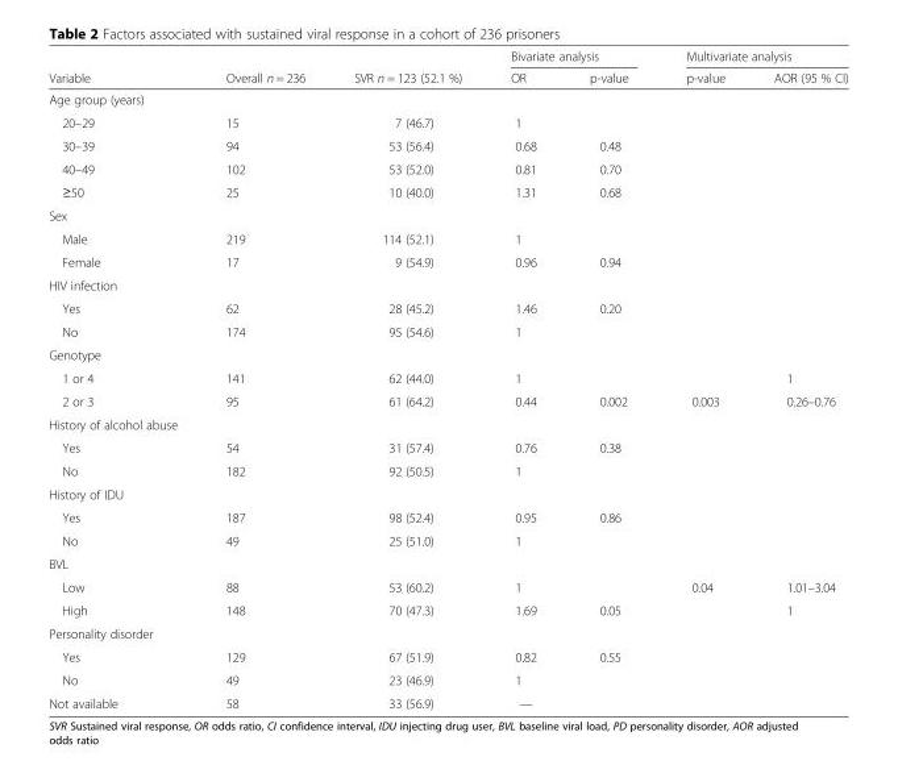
<table><thead><tr><td rowspan="2">Variable</td><td rowspan="2">Overall n = 236</td><td rowspan="2">SVR n = 123 (52.1 %)</td><td colspan="2">Bivariate analysis</td><td colspan="2">Multivariate analysis</td></tr><tr><td>OR</td><td>p-value</td><td>p-value</td><td>AOR (95 % CI)</td></tr></thead><tbody><tr><td colspan="7">Age group (years)</td></tr><tr><td>20–29</td><td>15</td><td>7 (46.7)</td><td>1</td><td></td><td></td><td></td></tr><tr><td>30–39</td><td>94</td><td>53 (56.4)</td><td>0.68</td><td>0.48</td><td></td><td></td></tr><tr><td>40–49</td><td>102</td><td>53 (52.0)</td><td>0.81</td><td>0.70</td><td></td><td></td></tr><tr><td>≥50</td><td>25</td><td>10 (40.0)</td><td>1.31</td><td>0.68</td><td></td><td></td></tr><tr><td colspan="7">Sex</td></tr><tr><td>Male</td><td>219</td><td>114 (52.1)</td><td>1</td><td></td><td></td><td></td></tr><tr><td>Female</td><td>17</td><td>9 (54.9)</td><td>0.96</td><td>0.94</td><td></td><td></td></tr><tr><td colspan="7">HIV infection</td></tr><tr><td>Yes</td><td>62</td><td>28 (45.2)</td><td>1.46</td><td>0.20</td><td></td><td></td></tr><tr><td>No</td><td>174</td><td>95 (54.6)</td><td>1</td><td></td><td></td><td></td></tr><tr><td colspan="7">Genotype</td></tr><tr><td>1 or 4</td><td>141</td><td>62 (44.0)</td><td>1</td><td></td><td></td><td>1</td></tr><tr><td>2 or 3</td><td>95</td><td>61 (64.2)</td><td>0.44</td><td>0.002</td><td>0.003</td><td>0.26–0.76</td></tr><tr><td colspan="7">History of alcohol abuse</td></tr><tr><td>Yes</td><td>54</td><td>31 (57.4)</td><td>0.76</td><td>0.38</td><td></td><td></td></tr><tr><td>No</td><td>182</td><td>92 (50.5)</td><td>1</td><td></td><td></td><td></td></tr><tr><td colspan="7">History of IDU</td></tr><tr><td>Yes</td><td>187</td><td>98 (52.4)</td><td>0.95</td><td>0.86</td><td></td><td></td></tr><tr><td>No</td><td>49</td><td>25 (51.0)</td><td>1</td><td></td><td></td><td></td></tr><tr><td colspan="7">BVL</td></tr><tr><td>Low</td><td>88</td><td>53 (60.2)</td><td>1</td><td></td><td>0.04</td><td>1.01–3.04</td></tr><tr><td>High</td><td>148</td><td>70 (47.3)</td><td>1.69</td><td>0.05</td><td></td><td>1</td></tr><tr><td colspan="7">Personality disorder</td></tr><tr><td>Yes</td><td>129</td><td>67 (51.9)</td><td>0.82</td><td>0.55</td><td></td><td></td></tr><tr><td>No</td><td>49</td><td>23 (46.9)</td><td>1</td><td></td><td></td><td></td></tr><tr><td>Not available</td><td>58</td><td>33 (56.9)</td><td>—</td><td></td><td></td><td></td></tr></tbody></table>